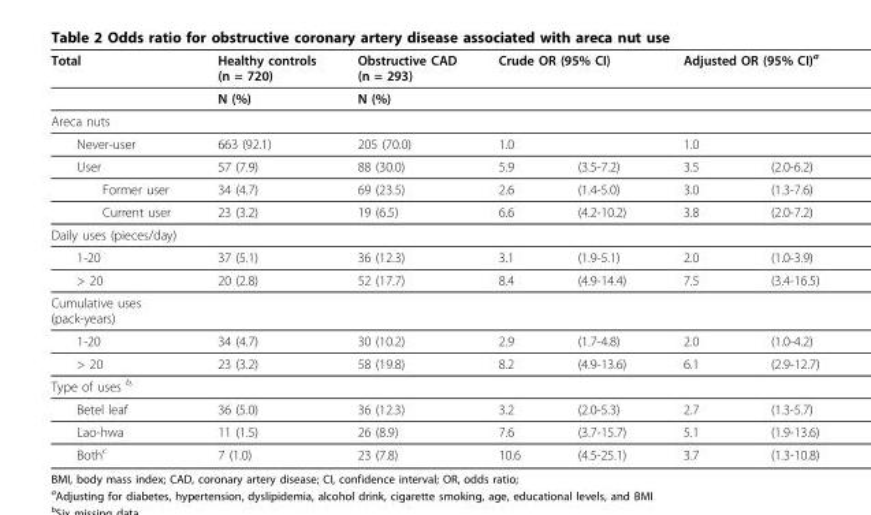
<table><thead><tr><td rowspan="2">Total</td><td rowspan="2">Healthy controls (n = 720) N (%)</td><td rowspan="2">Obstructive CAD (n = 293) N (%)</td><td colspan="2">Crude OR (95% CI)</td><td colspan="2">Adjusted OR (95% CI)a</td></tr><tr><td></td><td></td><td></td><td></td></tr></thead><tbody><tr><td colspan="7">Areca nuts</td></tr><tr><td>Never-user</td><td>663 (92.1)</td><td>205 (70.0)</td><td>1.0</td><td></td><td>1.0</td><td></td></tr><tr><td>User</td><td>57 (7.9)</td><td>88 (30.0)</td><td>5.9</td><td>(3.5-7.2)</td><td>3.5</td><td>(2.0-6.2)</td></tr><tr><td>Former user</td><td>34 (4.7)</td><td>69 (23.5)</td><td>2.6</td><td>(1.4-5.0)</td><td>3.0</td><td>(1.3-7.6)</td></tr><tr><td>Current user</td><td>23 (3.2)</td><td>19 (6.5)</td><td>6.6</td><td>(4.2-10.2)</td><td>3.8</td><td>(2.0-7.2)</td></tr><tr><td colspan="7">Daily uses (pieces/day)</td></tr><tr><td>1-20</td><td>37 (5.1)</td><td>36 (12.3)</td><td>3.1</td><td>(1.9-5.1)</td><td>2.0</td><td>(1.0-3.9)</td></tr><tr><td>&gt; 20</td><td>20 (2.8)</td><td>52 (17.7)</td><td>8.4</td><td>(4.9-14.4)</td><td>7.5</td><td>(3.4-16.5)</td></tr><tr><td colspan="7">Cumulative uses (pack-years)</td></tr><tr><td>1-20</td><td>34 (4.7)</td><td>30 (10.2)</td><td>2.9</td><td>(1.7-4.8)</td><td>2.0</td><td>(1.0-4.2)</td></tr><tr><td>&gt; 20</td><td>23 (3.2)</td><td>58 (19.8)</td><td>8.2</td><td>(4.9-13.6)</td><td>6.1</td><td>(2.9-12.7)</td></tr><tr><td colspan="7">Type of uses b,</td></tr><tr><td>Betel leaf</td><td>36 (5.0)</td><td>36 (12.3)</td><td>3.2</td><td>(2.0-5.3)</td><td>2.7</td><td>(1.3-5.7)</td></tr><tr><td>Lao-hwa</td><td>11 (1.5)</td><td>26 (8.9)</td><td>7.6</td><td>(3.7-15.7)</td><td>5.1</td><td>(1.9-13.6)</td></tr><tr><td>Bothc</td><td>7 (1.0)</td><td>23 (7.8)</td><td>10.6</td><td>(4.5-25.1)</td><td>3.7</td><td>(1.3-10.8)</td></tr></tbody></table>